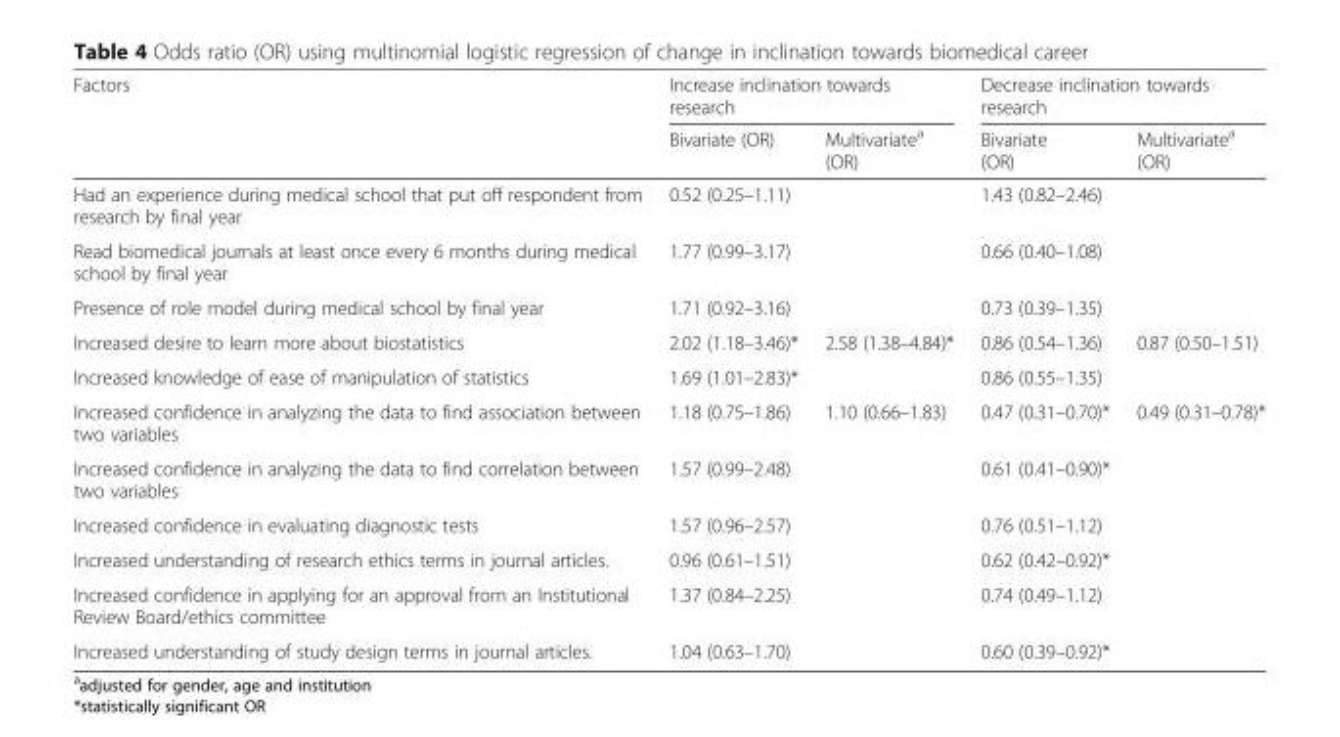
<table><thead><tr><td rowspan="2">Factors</td><td colspan="2">Increase inclination towards research</td><td colspan="2">Decrease inclination towards research</td></tr><tr><td>Bivariate (OR)</td><td>Multivariate<sup>a</sup> (OR)</td><td>Bivariate (OR)</td><td>Multivariate<sup>a</sup> (OR)</td></tr></thead><tbody><tr><td>Had an experience during medical school that put off respondent from research by final year</td><td>0.52 (0.25–1.11)</td><td></td><td>1.43 (0.82–2.46)</td><td rowspan="3"></td></tr><tr><td>Read biomedical journals at least once every 6 months during medical school by final year</td><td>1.77 (0.99–3.17)</td><td></td><td>0.66 (0.40–1.08)</td></tr><tr><td>Presence of role model during medical school by final year</td><td>1.71 (0.92–3.16)</td><td></td><td>0.73 (0.39–1.35)</td></tr><tr><td>Increased desire to learn more about biostatistics</td><td>2.02 (1.18–3.46)*</td><td>2.58 (1.38–4.84)*</td><td>0.86 (0.54–1.36)</td><td>0.87 (0.50–1.51)</td></tr><tr><td>Increased knowledge of ease of manipulation of statistics</td><td>1.69 (1.01–2.83)*</td><td></td><td>0.86 (0.55–1.35)</td><td></td></tr><tr><td>Increased confidence in analyzing the data to find association between two variables</td><td>1.18 (0.75–1.86)</td><td>1.10 (0.66–1.83)</td><td>0.47 (0.31–0.70)*</td><td>0.49 (0.31–0.78)*</td></tr><tr><td>Increased confidence in analyzing the data to find correlation between two variables</td><td>1.57 (0.99–2.48)</td><td></td><td>0.61 (0.41–0.90)*</td><td rowspan="5"></td></tr><tr><td>Increased confidence in evaluating diagnostic tests</td><td>1.57 (0.96–2.57)</td><td></td><td>0.76 (0.51–1.12)</td></tr><tr><td>Increased understanding of research ethics terms in journal articles.</td><td>0.96 (0.61–1.51)</td><td></td><td>0.62 (0.42–0.92)*</td></tr><tr><td>Increased confidence in applying for an approval from an Institutional Review Board/ethics committee</td><td>1.37 (0.84–2.25)</td><td></td><td>0.74 (0.49–1.12)</td></tr><tr><td>Increased understanding of study design terms in journal articles.</td><td>1.04 (0.63–1.70)</td><td></td><td>0.60 (0.39–0.92)*</td></tr></tbody></table>